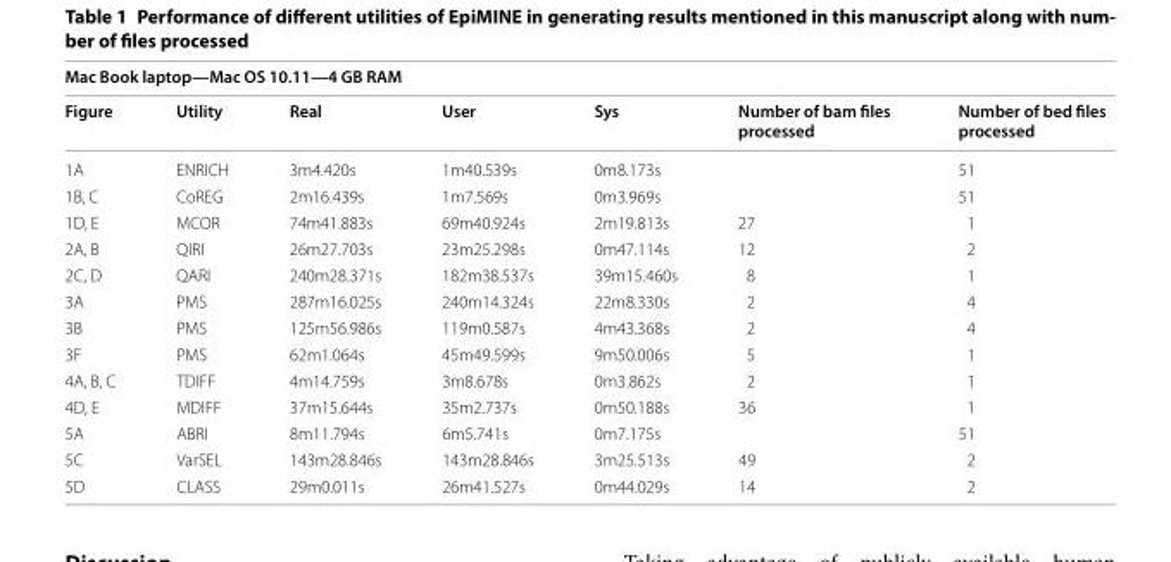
<table><thead><tr><td colspan="7">Mac Book laptop—Mac OS 10.11—4 GB RAM</td></tr><tr><td>Figure</td><td>Utility</td><td>Real</td><td>User</td><td>Sys</td><td>Number of bam files processed</td><td>Number of bed files processed</td></tr></thead><tbody><tr><td>1A</td><td>ENRICH</td><td>3m4.420s</td><td>1m40.539s</td><td>0m8.173s</td><td></td><td>51</td></tr><tr><td>1B, C</td><td>CoREG</td><td>2m16.439s</td><td>1m7.569s</td><td>0m3.969s</td><td></td><td>51</td></tr><tr><td>1D, E</td><td>MCOR</td><td>74m41.883s</td><td>69m40.924s</td><td>2m19.813s</td><td>27</td><td>1</td></tr><tr><td>2A, B</td><td>QIRI</td><td>26m27.703s</td><td>23m25.298s</td><td>0m47.114s</td><td>12</td><td>2</td></tr><tr><td>2C, D</td><td>QARI</td><td>240m28.371s</td><td>182m38.537s</td><td>39m15.460s</td><td>8</td><td>1</td></tr><tr><td>3A</td><td>PMS</td><td>287m16.025s</td><td>240m14.324s</td><td>22m8.330s</td><td>2</td><td>4</td></tr><tr><td>3B</td><td>PMS</td><td>125m56.986s</td><td>119m0.587s</td><td>4m43.368s</td><td>2</td><td>4</td></tr><tr><td>3F</td><td>PMS</td><td>62m1.064s</td><td>45m49.599s</td><td>9m50.006s</td><td>5</td><td>1</td></tr><tr><td>4A, B, C</td><td>TDIFF</td><td>4m14.759s</td><td>3m8.678s</td><td>0m3.862s</td><td>2</td><td>1</td></tr><tr><td>4D, E</td><td>MDIFF</td><td>37m15.644s</td><td>35m2.737s</td><td>0m50.188s</td><td>36</td><td>1</td></tr><tr><td>5A</td><td>ABRI</td><td>8m11.794s</td><td>6m5.741s</td><td>0m7.175s</td><td></td><td>51</td></tr><tr><td>5C</td><td>VarSEL</td><td>143m28.846s</td><td>143m28.846s</td><td>3m25.513s</td><td>49</td><td>2</td></tr><tr><td>5D</td><td>CLASS</td><td>29m0.011s</td><td>26m41.527s</td><td>0m44.029s</td><td>14</td><td>2</td></tr></tbody></table>